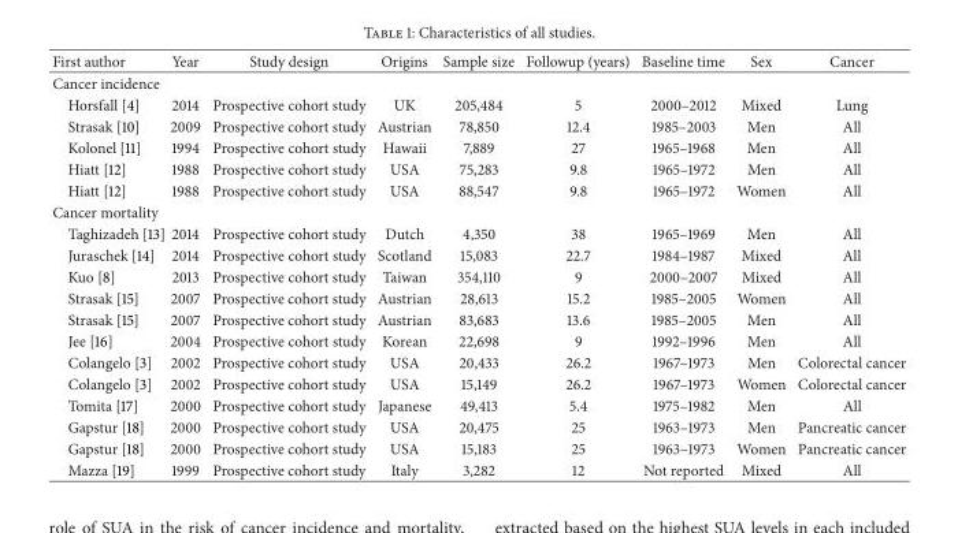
<table><thead><tr><td>First author</td><td>Year</td><td>Study design</td><td>Origins</td><td>Sample size</td><td>Followup (years)</td><td>Baseline time</td><td>Sex</td><td>Cancer</td></tr></thead><tbody><tr><td colspan="9">Cancer incidence</td></tr><tr><td>Horsfall [4]</td><td>2014</td><td>Prospective cohort study</td><td>UK</td><td>205,484</td><td>5</td><td>2000–2012</td><td>Mixed</td><td>Lung</td></tr><tr><td>Strasak [10]</td><td>2009</td><td>Prospective cohort study</td><td>Austrian</td><td>78,850</td><td>12.4</td><td>1985–2003</td><td>Men</td><td>All</td></tr><tr><td>Kolonel [11]</td><td>1994</td><td>Prospective cohort study</td><td>Hawaii</td><td>7,889</td><td>27</td><td>1965–1968</td><td>Men</td><td>All</td></tr><tr><td>Hiatt [12]</td><td>1988</td><td>Prospective cohort study</td><td>USA</td><td>75,283</td><td>9.8</td><td>1965–1972</td><td>Men</td><td>All</td></tr><tr><td>Hiatt [12]</td><td>1988</td><td>Prospective cohort study</td><td>USA</td><td>88,547</td><td>9.8</td><td>1965–1972</td><td>Women</td><td>All</td></tr><tr><td colspan="9">Cancer mortality</td></tr><tr><td>Taghizadeh [13]</td><td>2014</td><td>Prospective cohort study</td><td>Dutch</td><td>4,350</td><td>38</td><td>1965–1969</td><td>Men</td><td>All</td></tr><tr><td>Juraschek [14]</td><td>2014</td><td>Prospective cohort study</td><td>Scotland</td><td>15,083</td><td>22.7</td><td>1984–1987</td><td>Mixed</td><td>All</td></tr><tr><td>Kuo [8]</td><td>2013</td><td>Prospective cohort study</td><td>Taiwan</td><td>354,110</td><td>9</td><td>2000–2007</td><td>Mixed</td><td>All</td></tr><tr><td>Strasak [15]</td><td>2007</td><td>Prospective cohort study</td><td>Austrian</td><td>28,613</td><td>15.2</td><td>1985–2005</td><td>Women</td><td>All</td></tr><tr><td>Strasak [15]</td><td>2007</td><td>Prospective cohort study</td><td>Austrian</td><td>83,683</td><td>13.6</td><td>1985–2005</td><td>Men</td><td>All</td></tr><tr><td>Jee [16]</td><td>2004</td><td>Prospective cohort study</td><td>Korean</td><td>22,698</td><td>9</td><td>1992–1996</td><td>Men</td><td>All</td></tr><tr><td>Colangelo [3]</td><td>2002</td><td>Prospective cohort study</td><td>USA</td><td>20,433</td><td>26.2</td><td>1967–1973</td><td>Men</td><td>Colorectal cancer</td></tr><tr><td>Colangelo [3]</td><td>2002</td><td>Prospective cohort study</td><td>USA</td><td>15,149</td><td>26.2</td><td>1967–1973</td><td>Women</td><td>Colorectal cancer</td></tr><tr><td>Tomita [17]</td><td>2000</td><td>Prospective cohort study</td><td>Japanese</td><td>49,413</td><td>5.4</td><td>1975–1982</td><td>Men</td><td>All</td></tr><tr><td>Gapstur [18]</td><td>2000</td><td>Prospective cohort study</td><td>USA</td><td>20,475</td><td>25</td><td>1963–1973</td><td>Men</td><td>Pancreatic cancer</td></tr><tr><td>Gapstur [18]</td><td>2000</td><td>Prospective cohort study</td><td>USA</td><td>15,183</td><td>25</td><td>1963–1973</td><td>Women</td><td>Pancreatic cancer</td></tr><tr><td>Mazza [19]</td><td>1999</td><td>Prospective cohort study</td><td>Italy</td><td>3,282</td><td>12</td><td>Not reported</td><td>Mixed</td><td>All</td></tr></tbody></table>